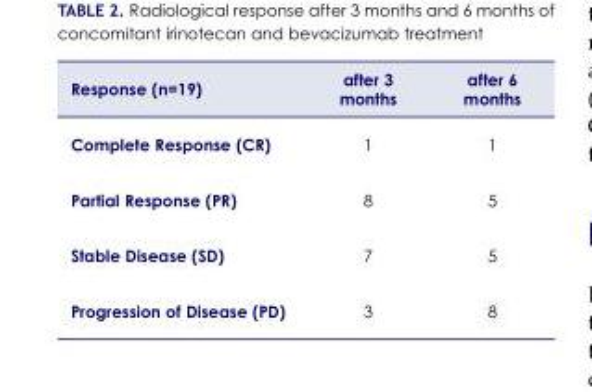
<table><thead><tr><td>Response (n=19)</td><td>after 3 months</td><td>after 6 months</td></tr></thead><tbody><tr><td>Complete Response (CR)</td><td>1</td><td>1</td></tr><tr><td>Partial Response (PR)</td><td>8</td><td>5</td></tr><tr><td>Stable Disease (SD)</td><td>7</td><td>5</td></tr><tr><td>Progression of Disease (PD)</td><td>3</td><td>8</td></tr></tbody></table>